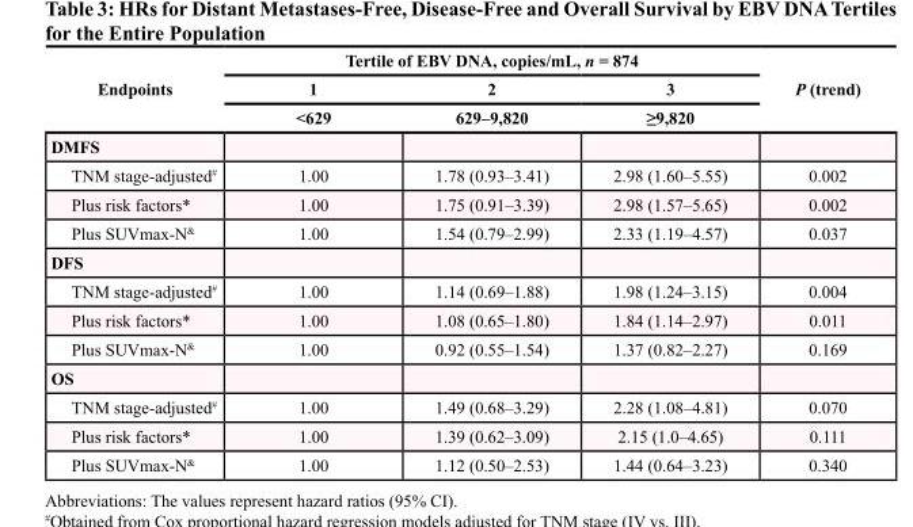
<table><thead><tr><td rowspan="3">Endpoints</td><td colspan="3">Tertile of EBV DNA, copies/mL, n = 874</td><td rowspan="3">P (trend)</td></tr><tr><td rowspan="2">1 &lt;629</td><td rowspan="2">2 629–9,820</td><td rowspan="2">3 ≥9,820</td></tr><tr></tr></thead><tbody><tr><td colspan="5">DMFS</td></tr><tr><td>TNM stage-adjusted<sup>#</sup></td><td>1.00</td><td>1.78 (0.93–3.41)</td><td>2.98 (1.60–5.55)</td><td>0.002</td></tr><tr><td>Plus risk factors*</td><td>1.00</td><td>1.75 (0.91–3.39)</td><td>2.98 (1.57–5.65)</td><td>0.002</td></tr><tr><td>Plus SUVmax-N<sup>&amp;</sup></td><td>1.00</td><td>1.54 (0.79–2.99)</td><td>2.33 (1.19–4.57)</td><td>0.037</td></tr><tr><td colspan="5">DFS</td></tr><tr><td>TNM stage-adjusted<sup>#</sup></td><td>1.00</td><td>1.14 (0.69–1.88)</td><td>1.98 (1.24–3.15)</td><td>0.004</td></tr><tr><td>Plus risk factors*</td><td>1.00</td><td>1.08 (0.65–1.80)</td><td>1.84 (1.14–2.97)</td><td>0.011</td></tr><tr><td>Plus SUVmax-N<sup>&amp;</sup></td><td>1.00</td><td>0.92 (0.55–1.54)</td><td>1.37 (0.82–2.27)</td><td>0.169</td></tr><tr><td colspan="5">OS</td></tr><tr><td>TNM stage-adjusted<sup>#</sup></td><td>1.00</td><td>1.49 (0.68–3.29)</td><td>2.28 (1.08–4.81)</td><td>0.070</td></tr><tr><td>Plus risk factors*</td><td>1.00</td><td>1.39 (0.62–3.09)</td><td>2.15 (1.0–4.65)</td><td>0.111</td></tr><tr><td>Plus SUVmax-N<sup>&amp;</sup></td><td>1.00</td><td>1.12 (0.50–2.53)</td><td>1.44 (0.64–3.23)</td><td>0.340</td></tr></tbody></table>